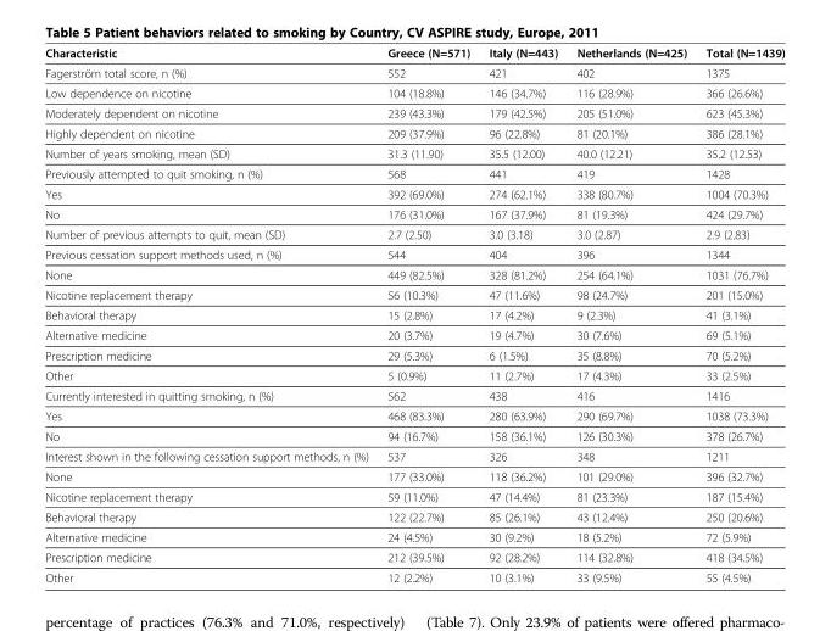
<table><thead><tr><td>Characteristic</td><td>Greece (N=571)</td><td>Italy (N=443)</td><td>Netherlands (N=425)</td><td>Total (N=1439)</td></tr></thead><tbody><tr><td>Fagerström total score, n (%)</td><td>552</td><td>421</td><td>402</td><td>1375</td></tr><tr><td>Low dependence on nicotine</td><td>104 (18.8%)</td><td>146 (34.7%)</td><td>116 (28.9%)</td><td>366 (26.6%)</td></tr><tr><td>Moderately dependent on nicotine</td><td>239 (43.3%)</td><td>179 (42.5%)</td><td>205 (51.0%)</td><td>623 (45.3%)</td></tr><tr><td>Highly dependent on nicotine</td><td>209 (37.9%)</td><td>96 (22.8%)</td><td>81 (20.1%)</td><td>386 (28.1%)</td></tr><tr><td>Number of years smoking, mean (SD)</td><td>31.3 (11.90)</td><td>35.5 (12.00)</td><td>40.0 (12.21)</td><td>35.2 (12.53)</td></tr><tr><td>Previously attempted to quit smoking, n (%)</td><td>568</td><td>441</td><td>419</td><td>1428</td></tr><tr><td>Yes</td><td>392 (69.0%)</td><td>274 (62.1%)</td><td>338 (80.7%)</td><td>1004 (70.3%)</td></tr><tr><td>No</td><td>176 (31.0%)</td><td>167 (37.9%)</td><td>81 (19.3%)</td><td>424 (29.7%)</td></tr><tr><td>Number of previous attempts to quit, mean (SD)</td><td>2.7 (2.50)</td><td>3.0 (3.18)</td><td>3.0 (2.87)</td><td>2.9 (2.83)</td></tr><tr><td>Previous cessation support methods used, n (%)</td><td>544</td><td>404</td><td>396</td><td>1344</td></tr><tr><td>None</td><td>449 (82.5%)</td><td>328 (81.2%)</td><td>254 (64.1%)</td><td>1031 (76.7%)</td></tr><tr><td>Nicotine replacement therapy</td><td>56 (10.3%)</td><td>47 (11.6%)</td><td>98 (24.7%)</td><td>201 (15.0%)</td></tr><tr><td>Behavioral therapy</td><td>15 (2.8%)</td><td>17 (4.2%)</td><td>9 (2.3%)</td><td>41 (3.1%)</td></tr><tr><td>Alternative medicine</td><td>20 (3.7%)</td><td>19 (4.7%)</td><td>30 (7.6%)</td><td>69 (5.1%)</td></tr><tr><td>Prescription medicine</td><td>29 (5.3%)</td><td>6 (1.5%)</td><td>35 (8.8%)</td><td>70 (5.2%)</td></tr><tr><td>Other</td><td>5 (0.9%)</td><td>11 (2.7%)</td><td>17 (4.3%)</td><td>33 (2.5%)</td></tr><tr><td>Currently interested in quitting smoking, n (%)</td><td>562</td><td>438</td><td>416</td><td>1416</td></tr><tr><td>Yes</td><td>468 (83.3%)</td><td>280 (63.9%)</td><td>290 (69.7%)</td><td>1038 (73.3%)</td></tr><tr><td>No</td><td>94 (16.7%)</td><td>158 (36.1%)</td><td>126 (30.3%)</td><td>378 (26.7%)</td></tr><tr><td>Interest shown in the following cessation support methods, n (%)</td><td>537</td><td>326</td><td>348</td><td>1211</td></tr><tr><td>None</td><td>177 (33.0%)</td><td>118 (36.2%)</td><td>101 (29.0%)</td><td>396 (32.7%)</td></tr><tr><td>Nicotine replacement therapy</td><td>59 (11.0%)</td><td>47 (14.4%)</td><td>81 (23.3%)</td><td>187 (15.4%)</td></tr><tr><td>Behavioral therapy</td><td>122 (22.7%)</td><td>85 (26.1%)</td><td>43 (12.4%)</td><td>250 (20.6%)</td></tr><tr><td>Alternative medicine</td><td>24 (4.5%)</td><td>30 (9.2%)</td><td>18 (5.2%)</td><td>72 (5.9%)</td></tr><tr><td>Prescription medicine</td><td>212 (39.5%)</td><td>92 (28.2%)</td><td>114 (32.8%)</td><td>418 (34.5%)</td></tr><tr><td>Other</td><td>12 (2.2%)</td><td>10 (3.1%)</td><td>33 (9.5%)</td><td>55 (4.5%)</td></tr></tbody></table>